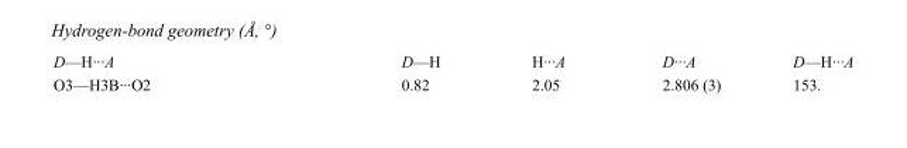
<table><tbody><tr><td>D—H···A</td><td>D—H</td><td>H···A</td><td>D···A</td><td>D—H···A</td></tr><tr><td>O3—H3B···O2</td><td>0.82</td><td>2.05</td><td>2.806 (3)</td><td>153.</td></tr></tbody></table>